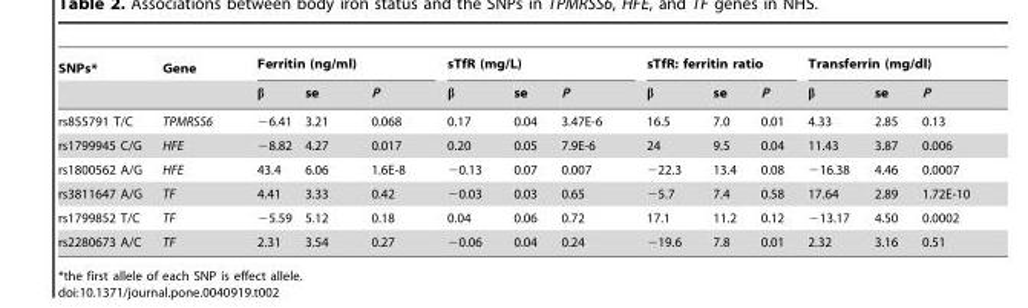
<table><thead><tr><td rowspan="2">SNPs*</td><td rowspan="2">Gene</td><td colspan="3">Ferritin (ng/ml)</td><td colspan="3">sTfR (mg/L)</td><td colspan="3">sTfR: ferritin ratio</td><td colspan="3">Transferrin (mg/dl)</td></tr><tr><td>β</td><td>se</td><td>P</td><td>β</td><td>se</td><td>P</td><td>β</td><td>se</td><td>P</td><td>β</td><td>se</td><td>P</td></tr></thead><tbody><tr><td>rs855791 T/C</td><td>TPMRSS6</td><td>−6.41</td><td>3.21</td><td>0.068</td><td>0.17</td><td>0.04</td><td>3.47E-6</td><td>16.5</td><td>7.0</td><td>0.01</td><td>4.33</td><td>2.85</td><td>0.13</td></tr><tr><td>rs1799945 C/G</td><td>HFE</td><td>−8.82</td><td>4.27</td><td>0.017</td><td>0.20</td><td>0.05</td><td>7.9E-6</td><td>24</td><td>9.5</td><td>0.04</td><td>11.43</td><td>3.87</td><td>0.006</td></tr><tr><td>rs1800562 A/G</td><td>HFE</td><td>43.4</td><td>6.06</td><td>1.6E-8</td><td>−0.13</td><td>0.07</td><td>0.007</td><td>−22.3</td><td>13.4</td><td>0.08</td><td>−16.38</td><td>4.46</td><td>0.0007</td></tr><tr><td>rs3811647 A/G</td><td>TF</td><td>4.41</td><td>3.33</td><td>0.42</td><td>−0.03</td><td>0.03</td><td>0.65</td><td>−5.7</td><td>7.4</td><td>0.58</td><td>17.64</td><td>2.89</td><td>1.72E-10</td></tr><tr><td>rs1799852 T/C</td><td>TF</td><td>−5.59</td><td>5.12</td><td>0.18</td><td>0.04</td><td>0.06</td><td>0.72</td><td>17.1</td><td>11.2</td><td>0.12</td><td>−13.17</td><td>4.50</td><td>0.0002</td></tr><tr><td>rs2280673 A/C</td><td>TF</td><td>2.31</td><td>3.54</td><td>0.27</td><td>−0.06</td><td>0.04</td><td>0.24</td><td>−19.6</td><td>7.8</td><td>0.01</td><td>2.32</td><td>3.16</td><td>0.51</td></tr></tbody></table>